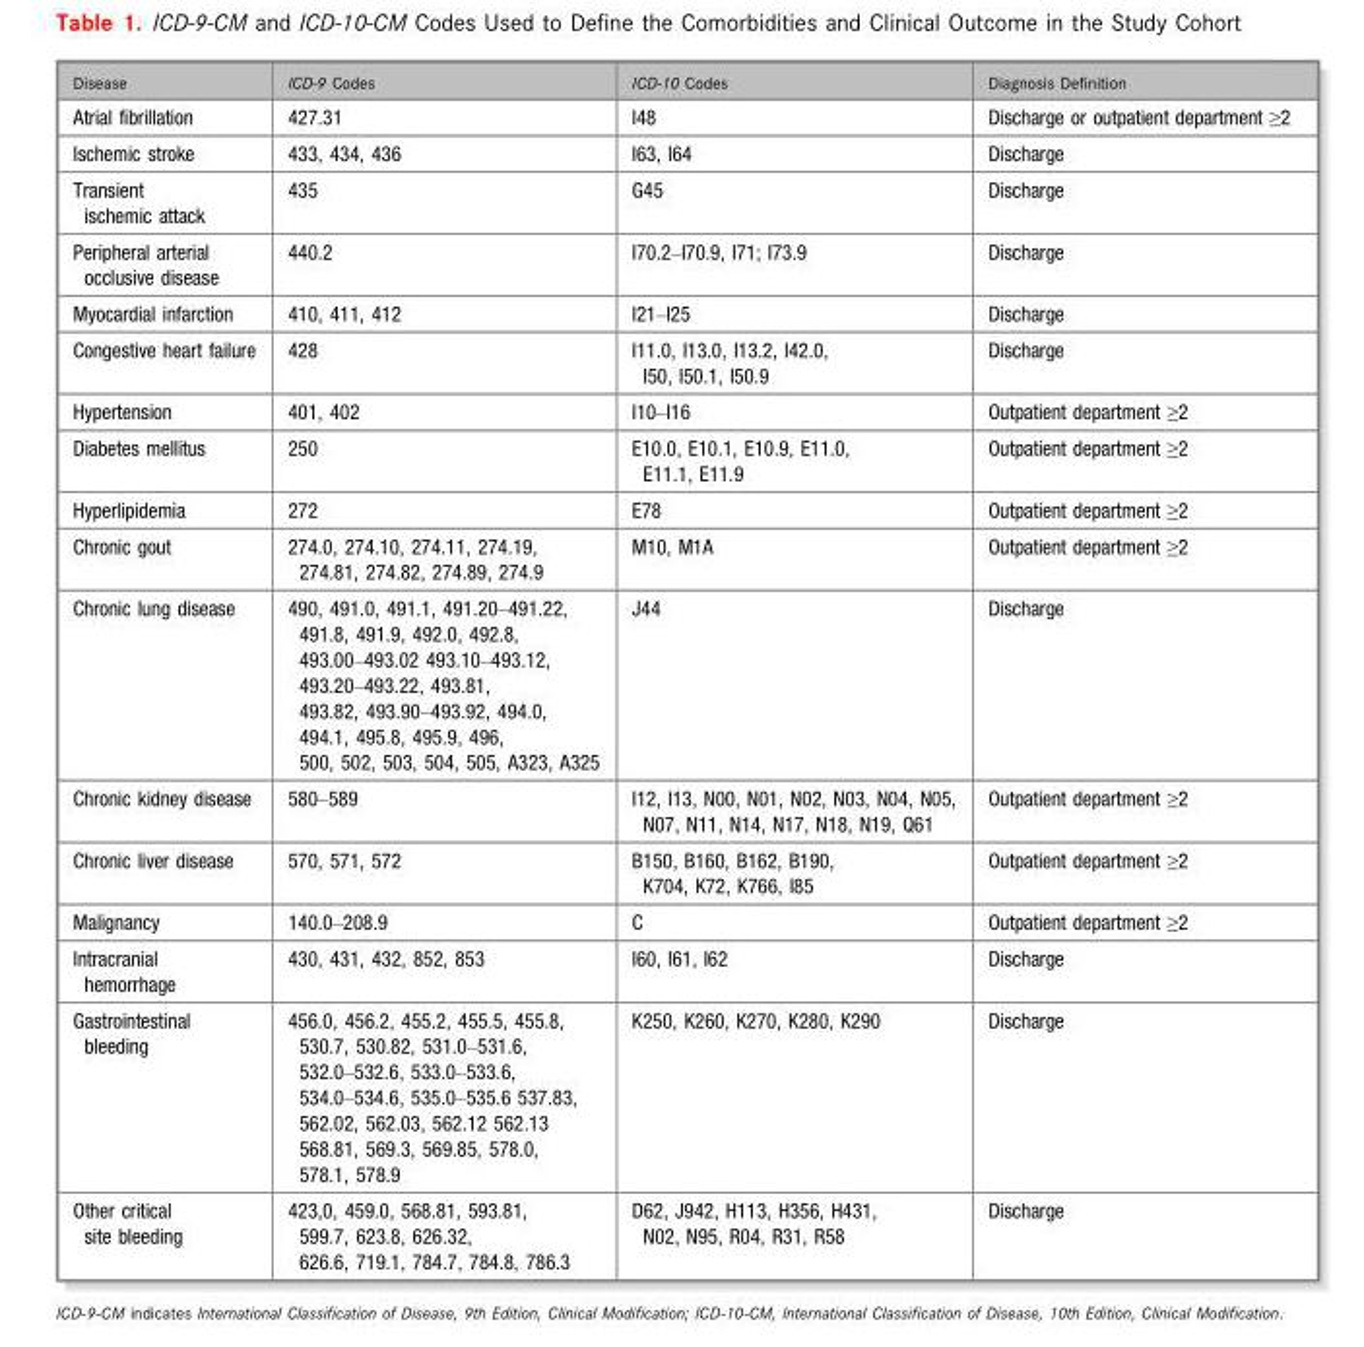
<table><thead><tr><td>Disease</td><td>ICD-9 Codes</td><td>ICD-10 Codes</td><td>Diagnosis Definition</td></tr></thead><tbody><tr><td>Atrial fibrillation</td><td>427.31</td><td>I48</td><td>Discharge or outpatient department ≥2</td></tr><tr><td>Ischemic stroke</td><td>433, 434, 436</td><td>I63, I64</td><td>Discharge</td></tr><tr><td>Transient ischemic attack</td><td>435</td><td>G45</td><td>Discharge</td></tr><tr><td>Peripheral arterial occlusive disease</td><td>440.2</td><td>I70.2–I70.9, I71; I73.9</td><td>Discharge</td></tr><tr><td>Myocardial infarction</td><td>410, 411, 412</td><td>I21–I25</td><td>Discharge</td></tr><tr><td>Congestive heart failure</td><td>428</td><td>I11.0, I13.0, I13.2, I42.0, I50, I50.1, I50.9</td><td>Discharge</td></tr><tr><td>Hypertension</td><td>401, 402</td><td>I10–I16</td><td>Outpatient department ≥2</td></tr><tr><td>Diabetes mellitus</td><td>250</td><td>E10.0, E10.1, E10.9, E11.0, E11.1, E11.9</td><td>Outpatient department ≥2</td></tr><tr><td>Hyperlipidemia</td><td>272</td><td>E78</td><td>Outpatient department ≥2</td></tr><tr><td>Chronic gout</td><td>274.0, 274.10, 274.11, 274.19, 274.81, 274.82, 274.89, 274.9</td><td>M10, M1A</td><td>Outpatient department ≥2</td></tr><tr><td>Chronic lung disease</td><td>490, 491.0, 491.1, 491.20–491.22, 491.8, 491.9, 492.0, 492.8, 493.00–493.02 493.10–493.12, 493.20–493.22, 493.81, 493.82, 493.90–493.92, 494.0, 494.1, 495.8, 495.9, 496, 500, 502, 503, 504, 505, A323, A325</td><td>J44</td><td>Discharge</td></tr><tr><td>Chronic kidney disease</td><td>580–589</td><td>I12, I13, N00, N01, N02, N03, N04, N05, N07, N11, N14, N17, N18, N19, Q61</td><td>Outpatient department ≥2</td></tr><tr><td>Chronic liver disease</td><td>570, 571, 572</td><td>B150, B160, B162, B190, K704, K72, K766, I85</td><td>Outpatient department ≥2</td></tr><tr><td>Malignancy</td><td>140.0–208.9</td><td>C</td><td>Outpatient department ≥2</td></tr><tr><td>Intracranial hemorrhage</td><td>430, 431, 432, 852, 853</td><td>I60, I61, I62</td><td>Discharge</td></tr><tr><td>Gastrointestinal bleeding</td><td>456.0, 456.2, 455.2, 455.5, 455.8, 530.7, 530.82, 531.0–531.6, 532.0–532.6, 533.0–533.6, 534.0–534.6, 535.0–535.6 537.83, 562.02, 562.03, 562.12 562.13 568.81, 569.3, 569.85, 578.0, 578.1, 578.9</td><td>K250, K260, K270, K280, K290</td><td>Discharge</td></tr><tr><td>Other critical site bleeding</td><td>423,0, 459.0, 568.81, 593.81, 599.7, 623.8, 626.32, 626.6, 719.1, 784.7, 784.8, 786.3</td><td>D62, J942, H113, H356, H431, N02, N95, R04, R31, R58</td><td>Discharge</td></tr></tbody></table>